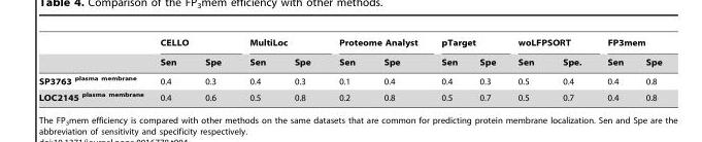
<table><thead><tr><td rowspan="2"></td><td colspan="2">CELLO</td><td colspan="2">MultiLoc</td><td colspan="2">Proteome Analyst</td><td colspan="2">pTarget</td><td colspan="2">woLFPSORT</td><td colspan="2">FP3mem</td></tr><tr><td>Sen</td><td>Spe</td><td>Sen</td><td>Spe</td><td>Sen</td><td>Spe</td><td>Sen</td><td>Spe</td><td>Sen</td><td>Spe.</td><td>Sen</td><td>Spe</td></tr></thead><tbody><tr><td>SP3763 <sup>plasma membrane</sup></td><td>0.4</td><td>0.3</td><td>0.4</td><td>0.3</td><td>0.1</td><td>0.4</td><td>0.4</td><td>0.3</td><td>0.5</td><td>0.4</td><td>0.4</td><td>0.8</td></tr><tr><td>LOC2145 <sup>plasma membrane</sup></td><td>0.4</td><td>0.6</td><td>0.5</td><td>0.8</td><td>0.2</td><td>0.8</td><td>0.5</td><td>0.7</td><td>0.5</td><td>0.7</td><td>0.4</td><td>0.8</td></tr></tbody></table>